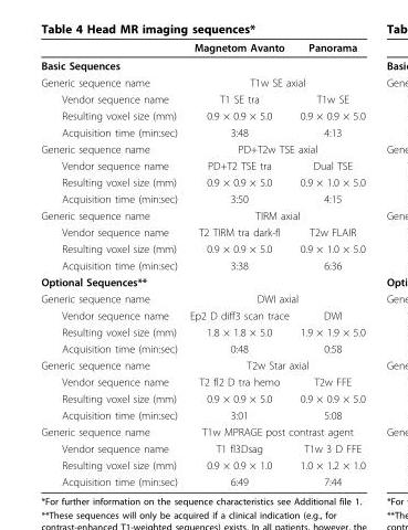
<table><thead><tr><td></td><td>Magnetom Avanto</td><td>Panorama</td></tr></thead><tbody><tr><td colspan="3">Basic Sequences</td></tr><tr><td>Generic sequence name</td><td colspan="2">T1w SE axial</td></tr><tr><td>Vendor sequence name</td><td>T1 SE tra</td><td>T1w SE</td></tr><tr><td>Resulting voxel size (mm)</td><td>0.9 × 0.9 × 5.0</td><td>0.9 × 0.9 × 5.0</td></tr><tr><td>Acquisition time (min:sec)</td><td>3:48</td><td>4:13</td></tr><tr><td>Generic sequence name</td><td colspan="2">PD+T2w TSE axial</td></tr><tr><td>Vendor sequence name</td><td>PD+T2 TSE tra</td><td>Dual TSE</td></tr><tr><td>Resulting voxel size (mm)</td><td>0.9 × 0.9 × 5.0</td><td>0.9 × 1.0 × 5.0</td></tr><tr><td>Acquisition time (min:sec)</td><td>3:50</td><td>4:15</td></tr><tr><td>Generic sequence name</td><td colspan="2">TIRM axial</td></tr><tr><td>Vendor sequence name</td><td>T2 TIRM tra dark-fl</td><td>T2w FLAIR</td></tr><tr><td>Resulting voxel size (mm)</td><td>0.9 × 0.9 × 5.0</td><td>0.9 × 1.0 × 5.0</td></tr><tr><td>Acquisition time (min:sec)</td><td>3:38</td><td>6:36</td></tr><tr><td colspan="3">Optional Sequences**</td></tr><tr><td>Generic sequence name</td><td colspan="2">DWI axial</td></tr><tr><td>Vendor sequence name</td><td>Ep2 D diff3 scan trace</td><td>DWI</td></tr><tr><td>Resulting voxel size (mm)</td><td>1.8 × 1.8 × 5.0</td><td>1.9 × 1.9 × 5.0</td></tr><tr><td>Acquisition time (min:sec)</td><td>0:48</td><td>0:58</td></tr><tr><td>Generic sequence name</td><td colspan="2">T2w Star axial</td></tr><tr><td>Vendor sequence name</td><td>T2 fl2 D tra hemo</td><td>T2w FFE</td></tr><tr><td>Resulting voxel size (mm)</td><td>0.9 × 0.9 × 5.0</td><td>0.9 × 0.9 × 5.0</td></tr><tr><td>Acquisition time (min:sec)</td><td>3:01</td><td>5:08</td></tr><tr><td>Generic sequence name</td><td colspan="2">T1w MPRAGE post contrast agent</td></tr><tr><td>Vendor sequence name</td><td>T1 fl3Dsag</td><td>T1w 3 D FFE</td></tr><tr><td>Resulting voxel size (mm)</td><td>0.9 × 0.9 × 1.0</td><td>1.0 × 1.2 × 1.0</td></tr><tr><td>Acquisition time (min:sec)</td><td>6:49</td><td>7:44</td></tr></tbody></table>